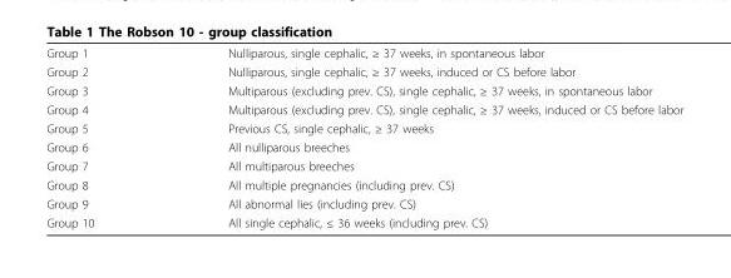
<table><tbody><tr><td>Group 1</td><td>Nulliparous, single cephalic, ≥ 37 weeks, in spontaneous labor</td></tr><tr><td>Group 2</td><td>Nulliparous, single cephalic, ≥ 37 weeks, induced or CS before labor</td></tr><tr><td>Group 3</td><td>Multiparous (excluding prev. CS), single cephalic, ≥ 37 weeks, in spontaneous labor</td></tr><tr><td>Group 4</td><td>Multiparous (excluding prev. CS), single cephalic, ≥ 37 weeks, induced or CS before labor</td></tr><tr><td>Group 5</td><td>Previous CS, single cephalic, ≥ 37 weeks</td></tr><tr><td>Group 6</td><td>All nulliparous breeches</td></tr><tr><td>Group 7</td><td>All multiparous breeches</td></tr><tr><td>Group 8</td><td>All multiple pregnancies (including prev. CS)</td></tr><tr><td>Group 9</td><td>All abnormal lies (including prev. CS)</td></tr><tr><td>Group 10</td><td>All single cephalic, ≤ 36 weeks (including prev. CS)</td></tr></tbody></table>